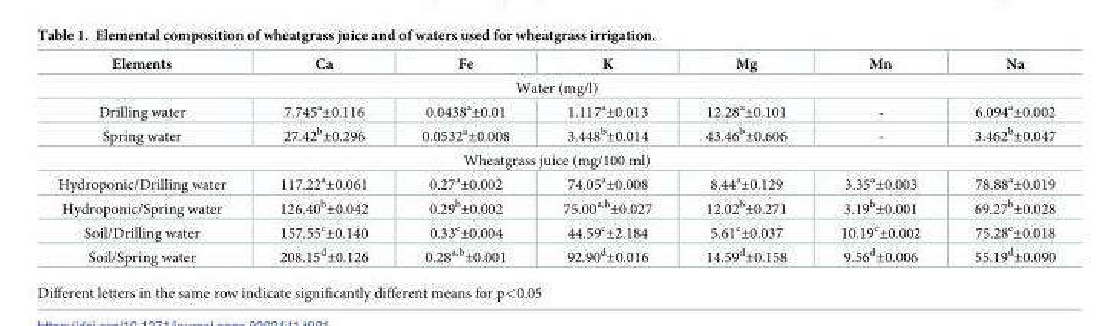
<table><thead><tr><td>Elements</td><td>Ca</td><td>Fe</td><td>K</td><td>Mg</td><td>Mn</td><td>Na</td></tr></thead><tbody><tr><td colspan="7">Water (mg/l)</td></tr><tr><td>Drilling water</td><td>7.745<sup>a</sup>±0.116</td><td>0.0438<sup>a</sup>±0.01</td><td>1.117<sup>a</sup>±0.013</td><td>12.28<sup>a</sup>±0.101</td><td>-</td><td>6.094<sup>a</sup>±0.002</td></tr><tr><td>Spring water</td><td>27.42<sup>b</sup>±0.296</td><td>0.0532<sup>a</sup>±0.008</td><td>3.448<sup>b</sup>±0.014</td><td>43.46<sup>b</sup>±0.606</td><td>-</td><td>3.462<sup>b</sup>±0.047</td></tr><tr><td colspan="7">Wheatgrass juice (mg/100 ml)</td></tr><tr><td>Hydroponic/Drilling water</td><td>117.22<sup>a</sup>±0.061</td><td>0.27<sup>a</sup>±0.002</td><td>74.05<sup>a</sup>±0.008</td><td>8.44<sup>a</sup>±0.129</td><td>3.35<sup>a</sup>±0.003</td><td>78.88<sup>a</sup>±0.019</td></tr><tr><td>Hydroponic/Spring water</td><td>126.40<sup>b</sup>±0.042</td><td>0.29<sup>b</sup>±0.002</td><td>75.00<sup>a,b</sup>±0.027</td><td>12.02<sup>b</sup>±0.271</td><td>3.19<sup>b</sup>±0.001</td><td>69.27<sup>b</sup>±0.028</td></tr><tr><td>Soil/Drilling water</td><td>157.55<sup>c</sup>±0.140</td><td>0.33<sup>c</sup>±0.004</td><td>44.59<sup>c</sup>±2.184</td><td>5.61<sup>c</sup>±0.037</td><td>10.19<sup>c</sup>±0.002</td><td>75.28<sup>c</sup>±0.018</td></tr><tr><td>Soil/Spring water</td><td>208.15<sup>d</sup>±0.126</td><td>0.28<sup>a,b</sup>±0.001</td><td>92.90<sup>d</sup>±0.016</td><td>14.59<sup>d</sup>±0.158</td><td>9.56<sup>d</sup>±0.006</td><td>55.19<sup>d</sup>±0.090</td></tr></tbody></table>